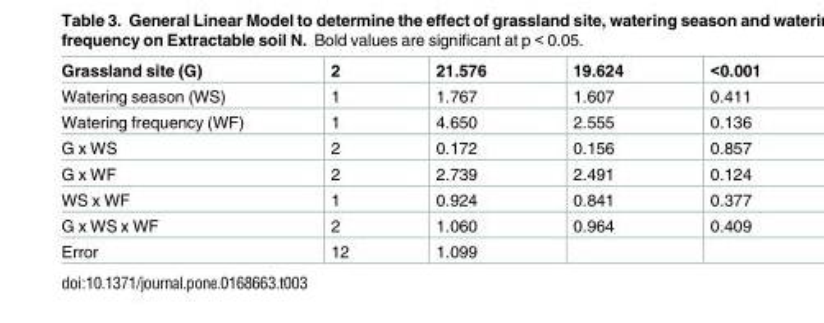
<table><tbody><tr><td>Grassland site (G)</td><td>2</td><td>21.576</td><td>19.624</td><td>&lt;0.001</td></tr><tr><td>Watering season (WS)</td><td>1</td><td>1.767</td><td>1.607</td><td>0.411</td></tr><tr><td>Watering frequency (WF)</td><td>1</td><td>4.650</td><td>2.555</td><td>0.136</td></tr><tr><td>G x WS</td><td>2</td><td>0.172</td><td>0.156</td><td>0.857</td></tr><tr><td>G x WF</td><td>2</td><td>2.739</td><td>2.491</td><td>0.124</td></tr><tr><td>WS x WF</td><td>1</td><td>0.924</td><td>0.841</td><td>0.377</td></tr><tr><td>G x WS x WF</td><td>2</td><td>1.060</td><td>0.964</td><td>0.409</td></tr><tr><td>Error</td><td>12</td><td>1.099</td><td></td><td></td></tr></tbody></table>